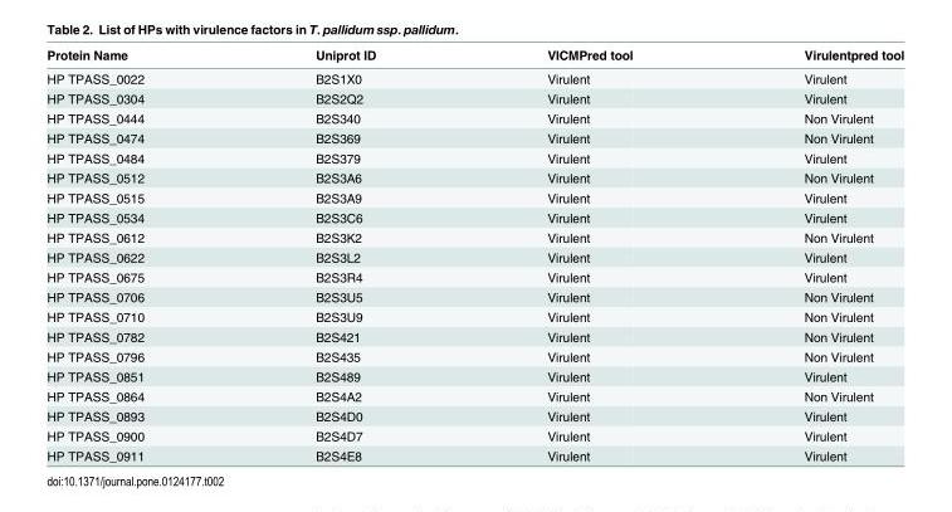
<table><thead><tr><td>Protein Name</td><td>Uniprot ID</td><td>VICMPred tool</td><td>Virulentpred tool</td></tr></thead><tbody><tr><td>HP TPASS_0022</td><td>B2S1X0</td><td>Virulent</td><td>Virulent</td></tr><tr><td>HP TPASS_0304</td><td>B2S2Q2</td><td>Virulent</td><td>Virulent</td></tr><tr><td>HP TPASS_0444</td><td>B2S340</td><td>Virulent</td><td>Non Virulent</td></tr><tr><td>HP TPASS_0474</td><td>B2S369</td><td>Virulent</td><td>Non Virulent</td></tr><tr><td>HP TPASS_0484</td><td>B2S379</td><td>Virulent</td><td>Virulent</td></tr><tr><td>HP TPASS_0512</td><td>B2S3A6</td><td>Virulent</td><td>Non Virulent</td></tr><tr><td>HP TPASS_0515</td><td>B2S3A9</td><td>Virulent</td><td>Virulent</td></tr><tr><td>HP TPASS_0534</td><td>B2S3C6</td><td>Virulent</td><td>Virulent</td></tr><tr><td>HP TPASS_0612</td><td>B2S3K2</td><td>Virulent</td><td>Non Virulent</td></tr><tr><td>HP TPASS_0622</td><td>B2S3L2</td><td>Virulent</td><td>Virulent</td></tr><tr><td>HP TPASS_0675</td><td>B2S3R4</td><td>Virulent</td><td>Virulent</td></tr><tr><td>HP TPASS_0706</td><td>B2S3U5</td><td>Virulent</td><td>Non Virulent</td></tr><tr><td>HP TPASS_0710</td><td>B2S3U9</td><td>Virulent</td><td>Non Virulent</td></tr><tr><td>HP TPASS_0782</td><td>B2S421</td><td>Virulent</td><td>Non Virulent</td></tr><tr><td>HP TPASS_0796</td><td>B2S435</td><td>Virulent</td><td>Non Virulent</td></tr><tr><td>HP TPASS_0851</td><td>B2S489</td><td>Virulent</td><td>Virulent</td></tr><tr><td>HP TPASS_0864</td><td>B2S4A2</td><td>Virulent</td><td>Non Virulent</td></tr><tr><td>HP TPASS_0893</td><td>B2S4D0</td><td>Virulent</td><td>Virulent</td></tr><tr><td>HP TPASS_0900</td><td>B2S4D7</td><td>Virulent</td><td>Virulent</td></tr><tr><td>HP TPASS_0911</td><td>B2S4E8</td><td>Virulent</td><td>Virulent</td></tr></tbody></table>